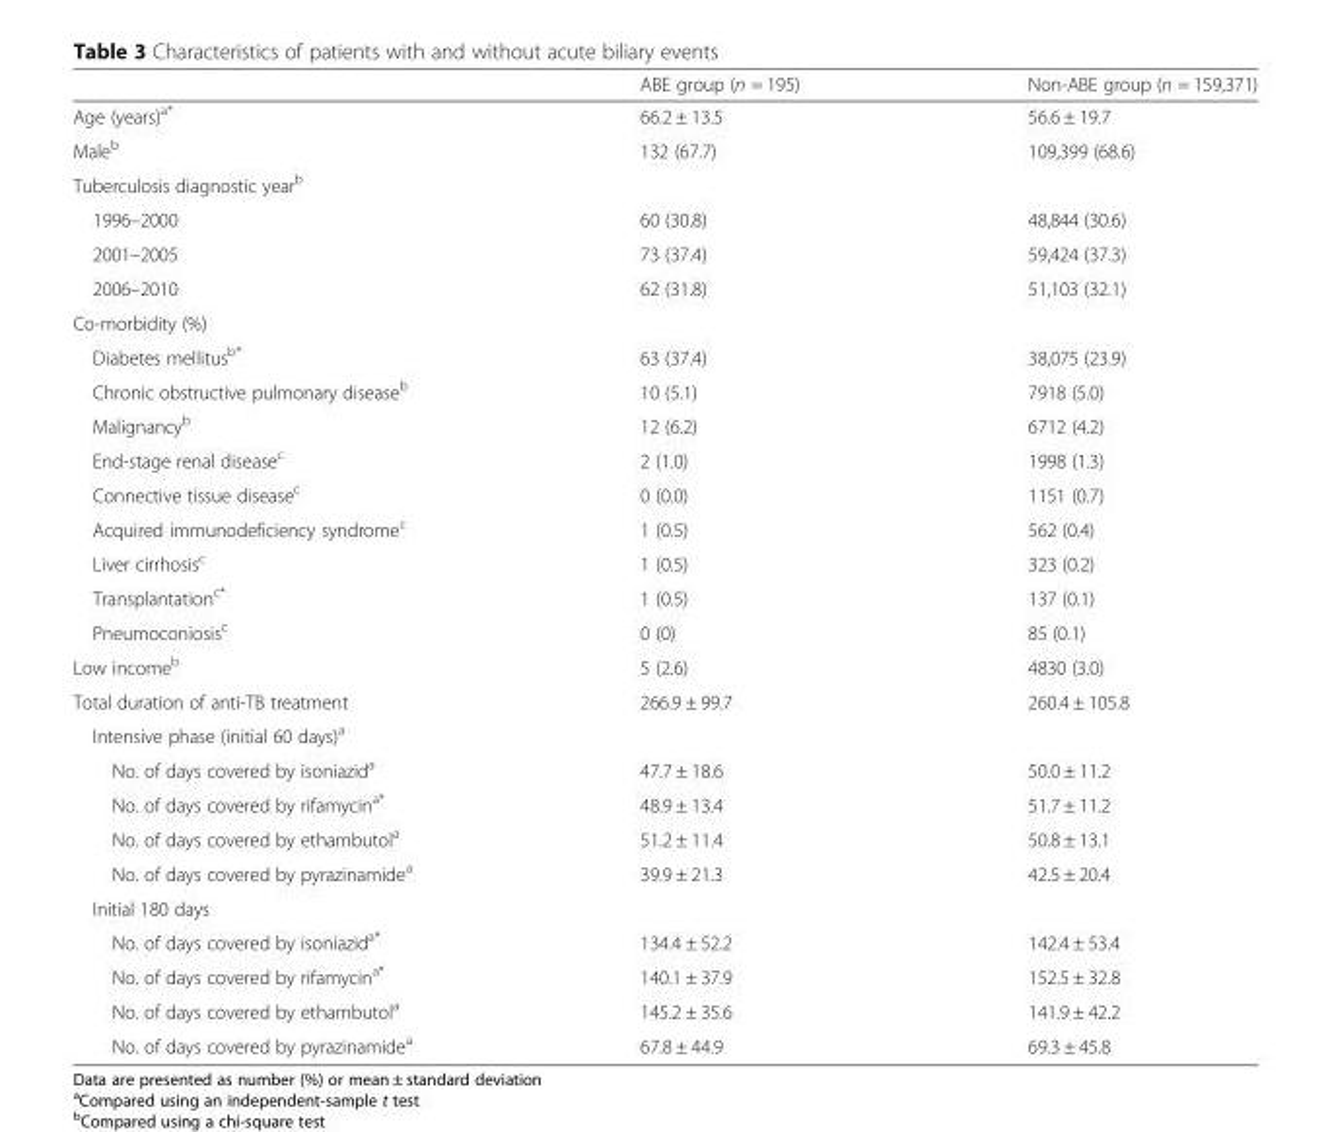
<table><thead><tr><td></td><td>ABE group (n = 195)</td><td>Non-ABE group (n = 159,371)</td></tr></thead><tbody><tr><td>Age (years)<sup>a*</sup></td><td>66.2 ± 13.5</td><td>56.6 ± 19.7</td></tr><tr><td>Male<sup>b</sup></td><td>132 (67.7)</td><td>109,399 (68.6)</td></tr><tr><td colspan="3">Tuberculosis diagnostic year<sup>b</sup></td></tr><tr><td>1996–2000</td><td>60 (30.8)</td><td>48,844 (30.6)</td></tr><tr><td>2001–2005</td><td>73 (37.4)</td><td>59,424 (37.3)</td></tr><tr><td>2006–2010</td><td>62 (31.8)</td><td>51,103 (32.1)</td></tr><tr><td colspan="3">Co-morbidity (%)</td></tr><tr><td>Diabetes mellitus<sup>b*</sup></td><td>63 (37.4)</td><td>38,075 (23.9)</td></tr><tr><td>Chronic obstructive pulmonary disease<sup>b</sup></td><td>10 (5.1)</td><td>7918 (5.0)</td></tr><tr><td>Malignancy<sup>b</sup></td><td>12 (6.2)</td><td>6712 (4.2)</td></tr><tr><td>End-stage renal disease<sup>c</sup></td><td>2 (1.0)</td><td>1998 (1.3)</td></tr><tr><td>Connective tissue disease<sup>c</sup></td><td>0 (0.0)</td><td>1151 (0.7)</td></tr><tr><td>Acquired immunodeficiency syndrome<sup>c</sup></td><td>1 (0.5)</td><td>562 (0.4)</td></tr><tr><td>Liver cirrhosis<sup>c</sup></td><td>1 (0.5)</td><td>323 (0.2)</td></tr><tr><td>Transplantation<sup>c*</sup></td><td>1 (0.5)</td><td>137 (0.1)</td></tr><tr><td>Pneumoconiosis<sup>c</sup></td><td>0 (0)</td><td>85 (0.1)</td></tr><tr><td>Low income<sup>b</sup></td><td>5 (2.6)</td><td>4830 (3.0)</td></tr><tr><td>Total duration of anti-TB treatment</td><td>266.9 ± 99.7</td><td>260.4 ± 105.8</td></tr><tr><td colspan="3">Intensive phase (initial 60 days)<sup>a</sup></td></tr><tr><td>No. of days covered by isoniazid<sup>a</sup></td><td>47.7 ± 18.6</td><td>50.0 ± 11.2</td></tr><tr><td>No. of days covered by rifamycin<sup>a*</sup></td><td>48.9 ± 13.4</td><td>51.7 ± 11.2</td></tr><tr><td>No. of days covered by ethambutol<sup>a</sup></td><td>51.2 ± 11.4</td><td>50.8 ± 13.1</td></tr><tr><td>No. of days covered by pyrazinamide<sup>a</sup></td><td>39.9 ± 21.3</td><td>42.5 ± 20.4</td></tr><tr><td colspan="3">Initial 180 days</td></tr><tr><td>No. of days covered by isoniazid<sup>a*</sup></td><td>134.4 ± 52.2</td><td>142.4 ± 53.4</td></tr><tr><td>No. of days covered by rifamycin<sup>a*</sup></td><td>140.1 ± 37.9</td><td>152.5 ± 32.8</td></tr><tr><td>No. of days covered by ethambutol<sup>a</sup></td><td>145.2 ± 35.6</td><td>141.9 ± 42.2</td></tr><tr><td>No. of days covered by pyrazinamide<sup>a</sup></td><td>67.8 ± 44.9</td><td>69.3 ± 45.8</td></tr></tbody></table>